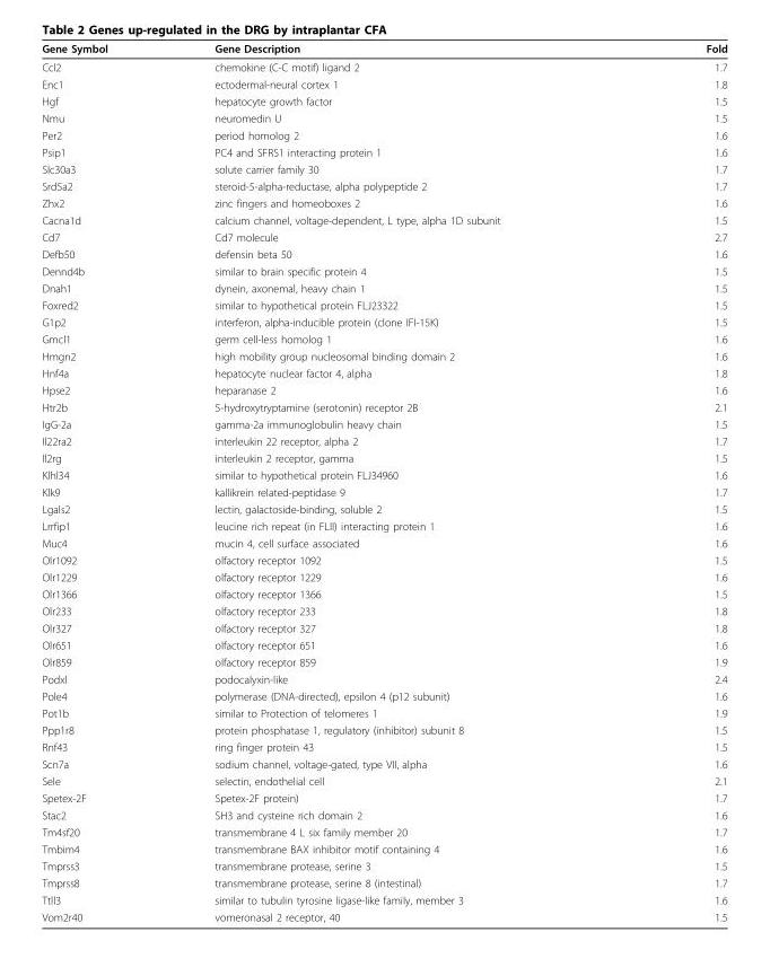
<table><thead><tr><td>Gene Symbol</td><td>Gene Description</td><td>Fold</td></tr></thead><tbody><tr><td>Ccl2</td><td>chemokine (C-C motif) ligand 2</td><td>1.7</td></tr><tr><td>Enc1</td><td>ectodermal-neural cortex 1</td><td>1.8</td></tr><tr><td>Hgf</td><td>hepatocyte growth factor</td><td>1.5</td></tr><tr><td>Nmu</td><td>neuromedin U</td><td>1.5</td></tr><tr><td>Per2</td><td>period homolog 2</td><td>1.6</td></tr><tr><td>Psip1</td><td>PC4 and SFRS1 interacting protein 1</td><td>1.6</td></tr><tr><td>Slc30a3</td><td>solute carrier family 30</td><td>1.7</td></tr><tr><td>Srd5a2</td><td>steroid-5-alpha-reductase, alpha polypeptide 2</td><td>1.7</td></tr><tr><td>Zhx2</td><td>zinc fingers and homeoboxes 2</td><td>1.6</td></tr><tr><td>Cacna1d</td><td>calcium channel, voltage-dependent, L type, alpha 1D subunit</td><td>1.5</td></tr><tr><td>Cd7</td><td>Cd7 molecule</td><td>2.7</td></tr><tr><td>Defb50</td><td>defensin beta 50</td><td>1.6</td></tr><tr><td>Dennd4b</td><td>similar to brain specific protein 4</td><td>1.5</td></tr><tr><td>Dnah1</td><td>dynein, axonemal, heavy chain 1</td><td>1.5</td></tr><tr><td>Foxred2</td><td>similar to hypothetical protein FLJ23322</td><td>1.5</td></tr><tr><td>G1p2</td><td>interferon, alpha-inducible protein (clone IFI-15K)</td><td>1.5</td></tr><tr><td>Gmcl1</td><td>germ cell-less homolog 1</td><td>1.6</td></tr><tr><td>Hmgn2</td><td>high mobility group nucleosomal binding domain 2</td><td>1.6</td></tr><tr><td>Hnf4a</td><td>hepatocyte nuclear factor 4, alpha</td><td>1.8</td></tr><tr><td>Hpse2</td><td>heparanase 2</td><td>1.6</td></tr><tr><td>Htr2b</td><td>5-hydroxytryptamine (serotonin) receptor 2B</td><td>2.1</td></tr><tr><td>IgG-2a</td><td>gamma-2a immunoglobulin heavy chain</td><td>1.5</td></tr><tr><td>Il22ra2</td><td>interleukin 22 receptor, alpha 2</td><td>1.7</td></tr><tr><td>Il2rg</td><td>interleukin 2 receptor, gamma</td><td>1.5</td></tr><tr><td>Klhl34</td><td>similar to hypothetical protein FLJ34960</td><td>1.6</td></tr><tr><td>Klk9</td><td>kallikrein related-peptidase 9</td><td>1.7</td></tr><tr><td>Lgals2</td><td>lectin, galactoside-binding, soluble 2</td><td>1.5</td></tr><tr><td>Lrrfip1</td><td>leucine rich repeat (in FLII) interacting protein 1</td><td>1.6</td></tr><tr><td>Muc4</td><td>mucin 4, cell surface associated</td><td>1.6</td></tr><tr><td>Olr1092</td><td>olfactory receptor 1092</td><td>1.5</td></tr><tr><td>Olr1229</td><td>olfactory receptor 1229</td><td>1.6</td></tr><tr><td>Olr1366</td><td>olfactory receptor 1366</td><td>1.5</td></tr><tr><td>Olr233</td><td>olfactory receptor 233</td><td>1.8</td></tr><tr><td>Olr327</td><td>olfactory receptor 327</td><td>1.8</td></tr><tr><td>Olr651</td><td>olfactory receptor 651</td><td>1.6</td></tr><tr><td>Olr859</td><td>olfactory receptor 859</td><td>1.9</td></tr><tr><td>Podxl</td><td>podocalyxin-like</td><td>2.4</td></tr><tr><td>Pole4</td><td>polymerase (DNA-directed), epsilon 4 (p12 subunit)</td><td>1.6</td></tr><tr><td>Pot1b</td><td>similar to Protection of telomeres 1</td><td>1.9</td></tr><tr><td>Ppp1r8</td><td>protein phosphatase 1, regulatory (inhibitor) subunit 8</td><td>1.5</td></tr><tr><td>Rnf43</td><td>ring finger protein 43</td><td>1.5</td></tr><tr><td>Scn7a</td><td>sodium channel, voltage-gated, type VII, alpha</td><td>1.6</td></tr><tr><td>Sele</td><td>selectin, endothelial cell</td><td>2.1</td></tr><tr><td>Spetex-2F</td><td>Spetex-2F protein)</td><td>1.7</td></tr><tr><td>Stac2</td><td>SH3 and cysteine rich domain 2</td><td>1.6</td></tr><tr><td>Tm4sf20</td><td>transmembrane 4 L six family member 20</td><td>1.7</td></tr><tr><td>Tmbim4</td><td>transmembrane BAX inhibitor motif containing 4</td><td>1.6</td></tr><tr><td>Tmprss3</td><td>transmembrane protease, serine 3</td><td>1.5</td></tr><tr><td>Tmprss8</td><td>transmembrane protease, serine 8 (intestinal)</td><td>1.7</td></tr><tr><td>Ttll3</td><td>similar to tubulin tyrosine ligase-like family, member 3</td><td>1.6</td></tr><tr><td>Vom2r40</td><td>vomeronasal 2 receptor, 40</td><td>1.5</td></tr></tbody></table>